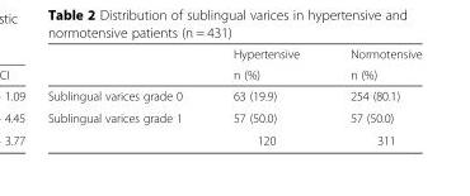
<table><thead><tr><td rowspan="2"></td><td rowspan="2">Hypertensive n (%)</td><td rowspan="2">Normotensive n (%)</td></tr><tr></tr></thead><tbody><tr><td>Sublingual varices grade 0</td><td>63 (19.9)</td><td>254 (80.1)</td></tr><tr><td rowspan="2">Sublingual varices grade 1</td><td>57 (50.0)</td><td>57 (50.0)</td></tr><tr><td>120</td><td>311</td></tr></tbody></table>